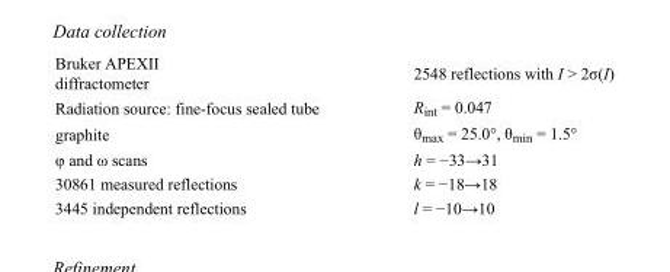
<table><tbody><tr><td>Bruker APEXII diffractometer</td><td>2548 reflections with I &gt; 2σ(I)</td></tr><tr><td>Radiation source: fine-focus sealed tube</td><td>R<sub>int</sub> = 0.047</td></tr><tr><td>graphite</td><td>θ<sub>max</sub> = 25.0°, θ<sub>min</sub> = 1.5°</td></tr><tr><td>φ and ω scans</td><td>h = −33→31</td></tr><tr><td>30861 measured reflections</td><td>k = −18→18</td></tr><tr><td>3445 independent reflections</td><td>l = −10→10</td></tr></tbody></table>